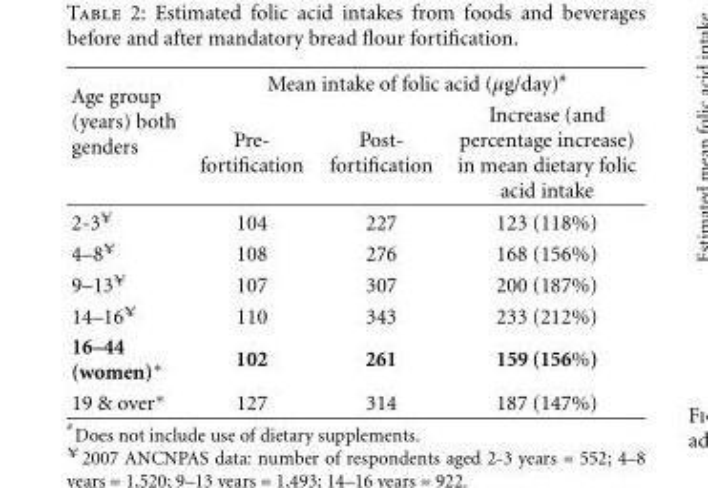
<table><thead><tr><td rowspan="2">Age group (years) both genders</td><td colspan="3">Mean intake of folic acid (µg/day)<sup>#</sup></td></tr><tr><td>Pre- fortification</td><td>Post- fortification</td><td>Increase (and percentage increase) in mean dietary folic acid intake</td></tr></thead><tbody><tr><td>2-3<sup>¥</sup></td><td>104</td><td>227</td><td>123 (118%)</td></tr><tr><td>4–8<sup>¥</sup></td><td>108</td><td>276</td><td>168 (156%)</td></tr><tr><td>9–13<sup>¥</sup></td><td>107</td><td>307</td><td>200 (187%)</td></tr><tr><td>14–16<sup>¥</sup></td><td>110</td><td>343</td><td>233 (212%)</td></tr><tr><td>16–44 (women)∗</td><td>102</td><td>261</td><td>159 (156%)</td></tr><tr><td>19 &amp; over∗</td><td>127</td><td>314</td><td>187 (147%)</td></tr></tbody></table>